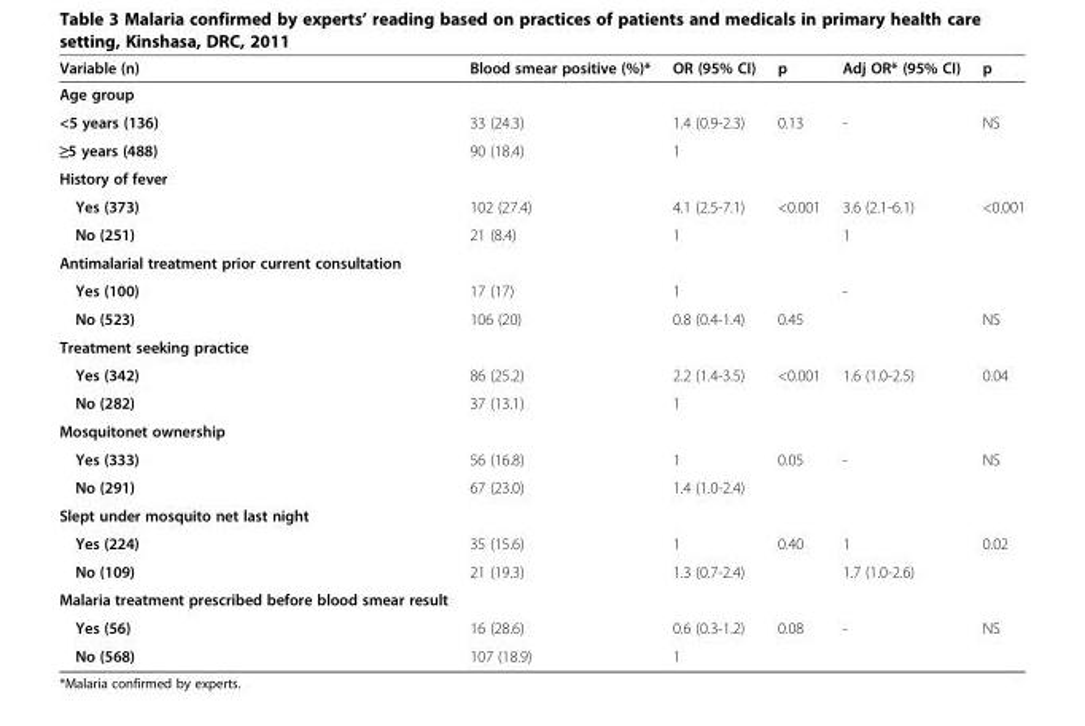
<table><thead><tr><td>Variable (n)</td><td>Blood smear positive (%)*</td><td>OR (95% CI)</td><td>p</td><td>Adj OR* (95% CI)</td><td>p</td></tr></thead><tbody><tr><td colspan="6">Age group</td></tr><tr><td>&lt;5 years (136)</td><td>33 (24.3)</td><td>1.4 (0.9-2.3)</td><td>0.13</td><td>-</td><td>NS</td></tr><tr><td>≥5 years (488)</td><td>90 (18.4)</td><td>1</td><td></td><td></td><td></td></tr><tr><td colspan="6">History of fever</td></tr><tr><td>Yes (373)</td><td>102 (27.4)</td><td>4.1 (2.5-7.1)</td><td>&lt;0.001</td><td>3.6 (2.1-6.1)</td><td>&lt;0.001</td></tr><tr><td>No (251)</td><td>21 (8.4)</td><td>1</td><td></td><td>1</td><td></td></tr><tr><td colspan="6">Antimalarial treatment prior current consultation</td></tr><tr><td>Yes (100)</td><td>17 (17)</td><td>1</td><td></td><td>-</td><td></td></tr><tr><td>No (523)</td><td>106 (20)</td><td>0.8 (0.4-1.4)</td><td>0.45</td><td></td><td>NS</td></tr><tr><td colspan="6">Treatment seeking practice</td></tr><tr><td>Yes (342)</td><td>86 (25.2)</td><td>2.2 (1.4-3.5)</td><td>&lt;0.001</td><td>1.6 (1.0-2.5)</td><td>0.04</td></tr><tr><td>No (282)</td><td>37 (13.1)</td><td>1</td><td></td><td></td><td></td></tr><tr><td colspan="6">Mosquitonet ownership</td></tr><tr><td>Yes (333)</td><td>56 (16.8)</td><td>1</td><td>0.05</td><td>-</td><td>NS</td></tr><tr><td>No (291)</td><td>67 (23.0)</td><td>1.4 (1.0-2.4)</td><td></td><td></td><td></td></tr><tr><td colspan="6">Slept under mosquito net last night</td></tr><tr><td>Yes (224)</td><td>35 (15.6)</td><td>1</td><td>0.40</td><td>1</td><td>0.02</td></tr><tr><td>No (109)</td><td>21 (19.3)</td><td>1.3 (0.7-2.4)</td><td></td><td>1.7 (1.0-2.6)</td><td></td></tr><tr><td colspan="6">Malaria treatment prescribed before blood smear result</td></tr><tr><td>Yes (56)</td><td>16 (28.6)</td><td>0.6 (0.3-1.2)</td><td>0.08</td><td>-</td><td>NS</td></tr><tr><td>No (568)</td><td>107 (18.9)</td><td>1</td><td></td><td></td><td></td></tr></tbody></table>